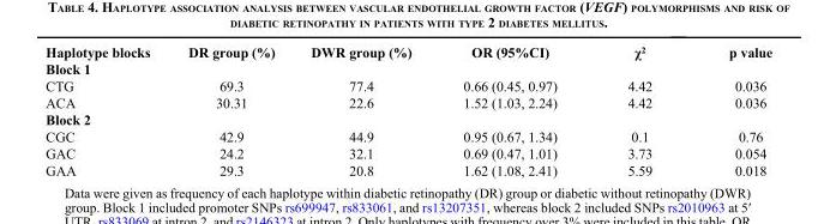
<table><thead><tr><td>Haplotype blocks</td><td>DR group (%)</td><td>DWR group (%)</td><td>OR (95%CI)</td><td>χ<sup>2</sup></td><td>p value</td></tr></thead><tbody><tr><td colspan="6">Block 1</td></tr><tr><td>CTG</td><td>69.3</td><td>77.4</td><td>0.66 (0.45, 0.97)</td><td>4.42</td><td>0.036</td></tr><tr><td>ACA</td><td>30.31</td><td>22.6</td><td>1.52 (1.03, 2.24)</td><td>4.42</td><td>0.036</td></tr><tr><td colspan="6">Block 2</td></tr><tr><td>CGC</td><td>42.9</td><td>44.9</td><td>0.95 (0.67, 1.34)</td><td>0.1</td><td>0.76</td></tr><tr><td>GAC</td><td>24.2</td><td>32.1</td><td>0.69 (0.47, 1.01)</td><td>3.73</td><td>0.054</td></tr><tr><td>GAA</td><td>29.3</td><td>20.8</td><td>1.62 (1.08, 2.41)</td><td>5.59</td><td>0.018</td></tr></tbody></table>